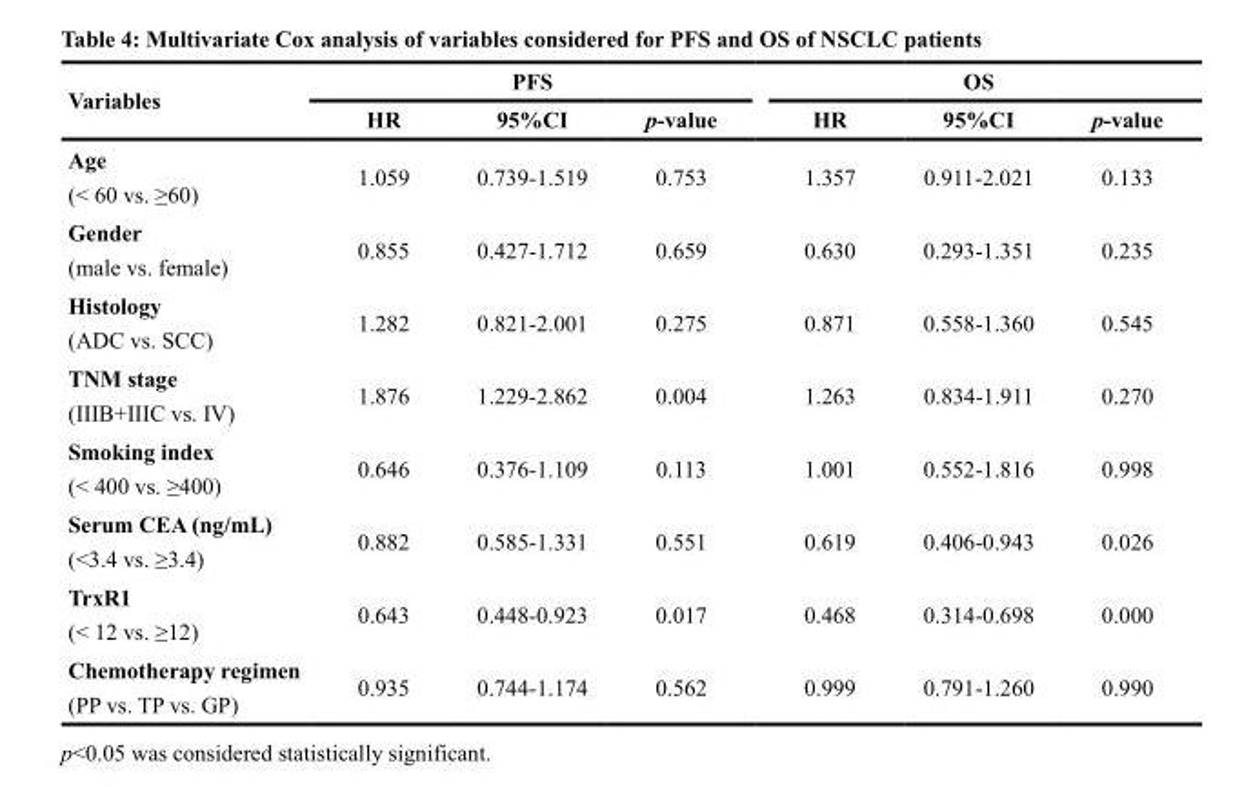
<table><thead><tr><td rowspan="2">Variables</td><td colspan="3">PFS</td><td colspan="3">OS</td></tr><tr><td>HR</td><td>95%CI</td><td>p-value</td><td>HR</td><td>95%CI</td><td>p-value</td></tr></thead><tbody><tr><td>Age (&lt; 60 vs. ≥60)</td><td>1.059</td><td>0.739-1.519</td><td>0.753</td><td>1.357</td><td>0.911-2.021</td><td>0.133</td></tr><tr><td>Gender (male vs. female)</td><td>0.855</td><td>0.427-1.712</td><td>0.659</td><td>0.630</td><td>0.293-1.351</td><td>0.235</td></tr><tr><td>Histology (ADC vs. SCC)</td><td>1.282</td><td>0.821-2.001</td><td>0.275</td><td>0.871</td><td>0.558-1.360</td><td>0.545</td></tr><tr><td>TNM stage (IIIB+IIIC vs. IV)</td><td>1.876</td><td>1.229-2.862</td><td>0.004</td><td>1.263</td><td>0.834-1.911</td><td>0.270</td></tr><tr><td>Smoking index (&lt; 400 vs. ≥400)</td><td>0.646</td><td>0.376-1.109</td><td>0.113</td><td>1.001</td><td>0.552-1.816</td><td>0.998</td></tr><tr><td>Serum CEA (ng/mL) (&lt;3.4 vs. ≥3.4)</td><td>0.882</td><td>0.585-1.331</td><td>0.551</td><td>0.619</td><td>0.406-0.943</td><td>0.026</td></tr><tr><td>TrxR1 (&lt; 12 vs. ≥12)</td><td>0.643</td><td>0.448-0.923</td><td>0.017</td><td>0.468</td><td>0.314-0.698</td><td>0.000</td></tr><tr><td>Chemotherapy regimen (PP vs. TP vs. GP)</td><td>0.935</td><td>0.744-1.174</td><td>0.562</td><td>0.999</td><td>0.791-1.260</td><td>0.990</td></tr></tbody></table>